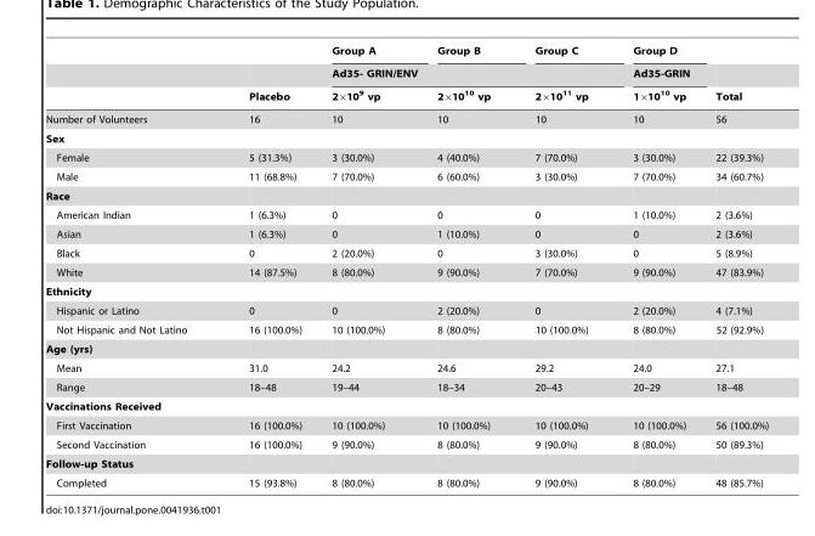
<table><thead><tr><td rowspan="3"></td><td rowspan="3">Placebo</td><td>Group A</td><td>Group B</td><td>Group C</td><td rowspan="3">Group D Ad35-GRIN 1×10<sup>10</sup> vp</td><td rowspan="3">Total</td></tr><tr><td colspan="3">Ad35- GRIN/ENV</td></tr><tr><td>2×10<sup>9</sup> vp</td><td>2×10<sup>10</sup> vp</td><td>2×10<sup>11</sup> vp</td></tr></thead><tbody><tr><td>Number of Volunteers</td><td>16</td><td>10</td><td>10</td><td>10</td><td>10</td><td>56</td></tr><tr><td colspan="7">Sex</td></tr><tr><td>Female</td><td>5 (31.3%)</td><td>3 (30.0%)</td><td>4 (40.0%)</td><td>7 (70.0%)</td><td>3 (30.0%)</td><td>22 (39.3%)</td></tr><tr><td>Male</td><td>11 (68.8%)</td><td>7 (70.0%)</td><td>6 (60.0%)</td><td>3 (30.0%)</td><td>7 (70.0%)</td><td>34 (60.7%)</td></tr><tr><td colspan="7">Race</td></tr><tr><td>American Indian</td><td>1 (6.3%)</td><td>0</td><td>0</td><td>0</td><td>1 (10.0%)</td><td>2 (3.6%)</td></tr><tr><td>Asian</td><td>1 (6.3%)</td><td>0</td><td>1 (10.0%)</td><td>0</td><td>0</td><td>2 (3.6%)</td></tr><tr><td>Black</td><td>0</td><td>2 (20.0%)</td><td>0</td><td>3 (30.0%)</td><td>0</td><td>5 (8.9%)</td></tr><tr><td>White</td><td>14 (87.5%)</td><td>8 (80.0%)</td><td>9 (90.0%)</td><td>7 (70.0%)</td><td>9 (90.0%)</td><td>47 (83.9%)</td></tr><tr><td colspan="7">Ethnicity</td></tr><tr><td>Hispanic or Latino</td><td>0</td><td>0</td><td>2 (20.0%)</td><td>0</td><td>2 (20.0%)</td><td>4 (7.1%)</td></tr><tr><td>Not Hispanic and Not Latino</td><td>16 (100.0%)</td><td>10 (100.0%)</td><td>8 (80.0%)</td><td>10 (100.0%)</td><td>8 (80.0%)</td><td>52 (92.9%)</td></tr><tr><td colspan="7">Age (yrs)</td></tr><tr><td>Mean</td><td>31.0</td><td>24.2</td><td>24.6</td><td>29.2</td><td>24.0</td><td>27.1</td></tr><tr><td>Range</td><td>18–48</td><td>19–44</td><td>18–34</td><td>20–43</td><td>20–29</td><td>18–48</td></tr><tr><td colspan="7">Vaccinations Received</td></tr><tr><td>First Vaccination</td><td>16 (100.0%)</td><td>10 (100.0%)</td><td>10 (100.0%)</td><td>10 (100.0%)</td><td>10 (100.0%)</td><td>56 (100.0%)</td></tr><tr><td>Second Vaccination</td><td>16 (100.0%)</td><td>9 (90.0%)</td><td>8 (80.0%)</td><td>9 (90.0%)</td><td>8 (80.0%)</td><td>50 (89.3%)</td></tr><tr><td colspan="7">Follow-up Status</td></tr><tr><td>Completed</td><td>15 (93.8%)</td><td>8 (80.0%)</td><td>8 (80.0%)</td><td>9 (90.0%)</td><td>8 (80.0%)</td><td>48 (85.7%)</td></tr></tbody></table>